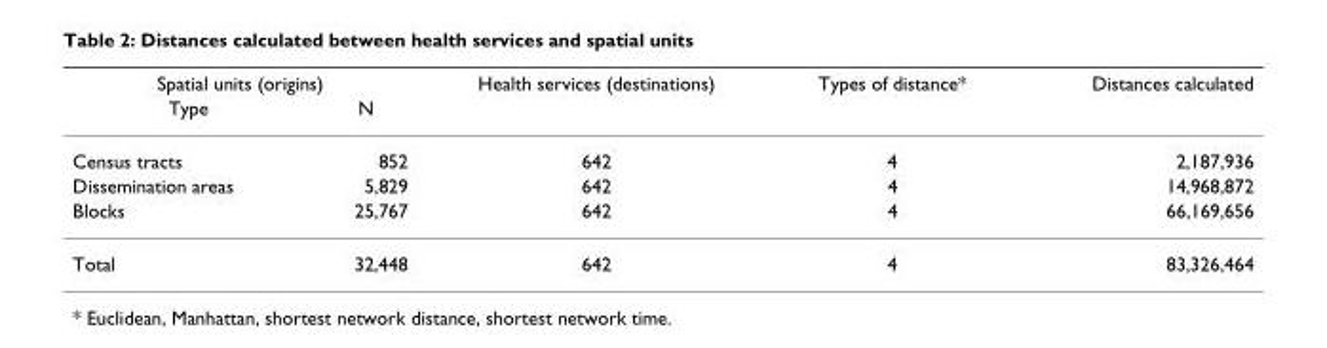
<table><thead><tr><td colspan="2">Spatial units (origins)</td><td rowspan="2">Health services (destinations)</td><td rowspan="2">Types of distance*</td><td rowspan="2">Distances calculated</td></tr><tr><td>Type</td><td>N</td></tr></thead><tbody><tr><td>Census tracts</td><td>852</td><td>642</td><td>4</td><td>2,187,936</td></tr><tr><td>Dissemination areas</td><td>5,829</td><td>642</td><td>4</td><td>14,968,872</td></tr><tr><td>Blocks</td><td>25,767</td><td>642</td><td>4</td><td>66,169,656</td></tr><tr><td>Total</td><td>32,448</td><td>642</td><td>4</td><td>83,326,464</td></tr></tbody></table>